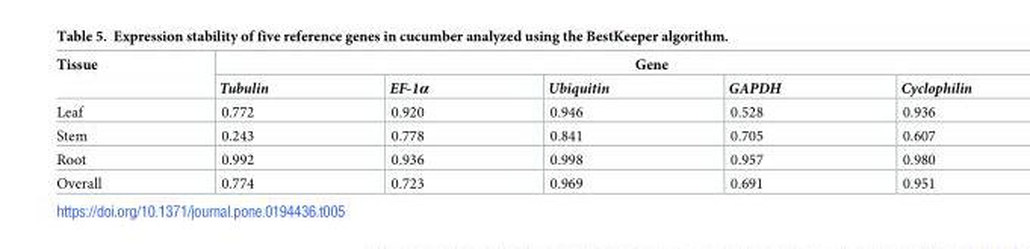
<table><thead><tr><td rowspan="2">Tissue</td><td colspan="5">Gene</td></tr><tr><td>Tubulin</td><td>EF-1α</td><td>Ubiquitin</td><td>GAPDH</td><td>Cyclophilin</td></tr></thead><tbody><tr><td>Leaf</td><td>0.772</td><td>0.920</td><td>0.946</td><td>0.528</td><td>0.936</td></tr><tr><td>Stem</td><td>0.243</td><td>0.778</td><td>0.841</td><td>0.705</td><td>0.607</td></tr><tr><td>Root</td><td>0.992</td><td>0.936</td><td>0.998</td><td>0.957</td><td>0.980</td></tr><tr><td>Overall</td><td>0.774</td><td>0.723</td><td>0.969</td><td>0.691</td><td>0.951</td></tr></tbody></table>